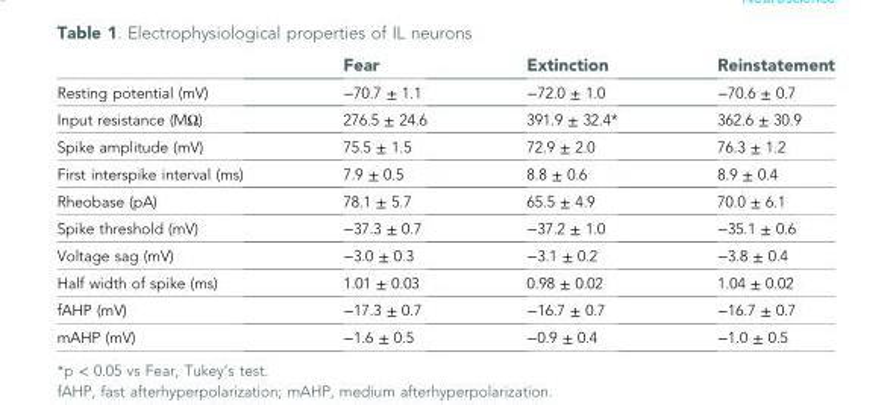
<table><thead><tr><td></td><td>Fear</td><td>Extinction</td><td>Reinstatement</td></tr></thead><tbody><tr><td>Resting potential (mV)</td><td>−70.7 ± 1.1</td><td>−72.0 ± 1.0</td><td>−70.6 ± 0.7</td></tr><tr><td>Input resistance (MΩ)</td><td>276.5 ± 24.6</td><td>391.9 ± 32.4*</td><td>362.6 ± 30.9</td></tr><tr><td>Spike amplitude (mV)</td><td>75.5 ± 1.5</td><td>72.9 ± 2.0</td><td>76.3 ± 1.2</td></tr><tr><td>First interspike interval (ms)</td><td>7.9 ± 0.5</td><td>8.8 ± 0.6</td><td>8.9 ± 0.4</td></tr><tr><td>Rheobase (pA)</td><td>78.1 ± 5.7</td><td>65.5 ± 4.9</td><td>70.0 ± 6.1</td></tr><tr><td>Spike threshold (mV)</td><td>−37.3 ± 0.7</td><td>−37.2 ± 1.0</td><td>−35.1 ± 0.6</td></tr><tr><td>Voltage sag (mV)</td><td>−3.0 ± 0.3</td><td>−3.1 ± 0.2</td><td>−3.8 ± 0.4</td></tr><tr><td>Half width of spike (ms)</td><td>1.01 ± 0.03</td><td>0.98 ± 0.02</td><td>1.04 ± 0.02</td></tr><tr><td>fAHP (mV)</td><td>−17.3 ± 0.7</td><td>−16.7 ± 0.7</td><td>−16.7 ± 0.7</td></tr><tr><td>mAHP (mV)</td><td>−1.6 ± 0.5</td><td>−0.9 ± 0.4</td><td>−1.0 ± 0.5</td></tr></tbody></table>